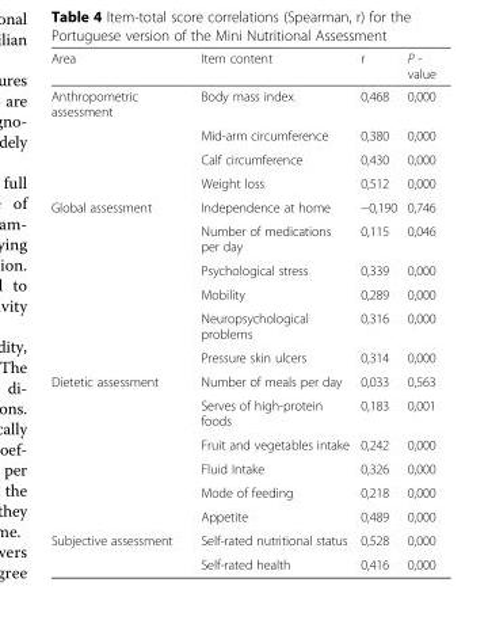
<table><thead><tr><td>Area</td><td>Item content</td><td>r</td><td>P - value</td></tr></thead><tbody><tr><td rowspan="4">Anthropometric assessment</td><td>Body mass index</td><td>0,468</td><td>0,000</td></tr><tr><td>Mid-arm circumference</td><td>0,380</td><td>0,000</td></tr><tr><td>Calf circumference</td><td>0,430</td><td>0,000</td></tr><tr><td>Weight loss</td><td>0,512</td><td>0,000</td></tr><tr><td rowspan="6">Global assessment</td><td>Independence at home</td><td>−0,190</td><td>0,746</td></tr><tr><td>Number of medications per day</td><td>0,115</td><td>0,046</td></tr><tr><td>Psychological stress</td><td>0,339</td><td>0,000</td></tr><tr><td>Mobility</td><td>0,289</td><td>0,000</td></tr><tr><td>Neuropsychological problems</td><td>0,316</td><td>0,000</td></tr><tr><td>Pressure skin ulcers</td><td>0,314</td><td>0,000</td></tr><tr><td rowspan="6">Dietetic assessment</td><td>Number of meals per day</td><td>0,033</td><td>0,563</td></tr><tr><td>Serves of high-protein foods</td><td>0,183</td><td>0,001</td></tr><tr><td>Fruit and vegetables intake</td><td>0,242</td><td>0,000</td></tr><tr><td>Fluid Intake</td><td>0,326</td><td>0,000</td></tr><tr><td>Mode of feeding</td><td>0,218</td><td>0,000</td></tr><tr><td>Appetite</td><td>0,489</td><td>0,000</td></tr><tr><td rowspan="2">Subjective assessment</td><td>Self-rated nutritional status</td><td>0,528</td><td>0,000</td></tr><tr><td>Self-rated health</td><td>0,416</td><td>0,000</td></tr></tbody></table>